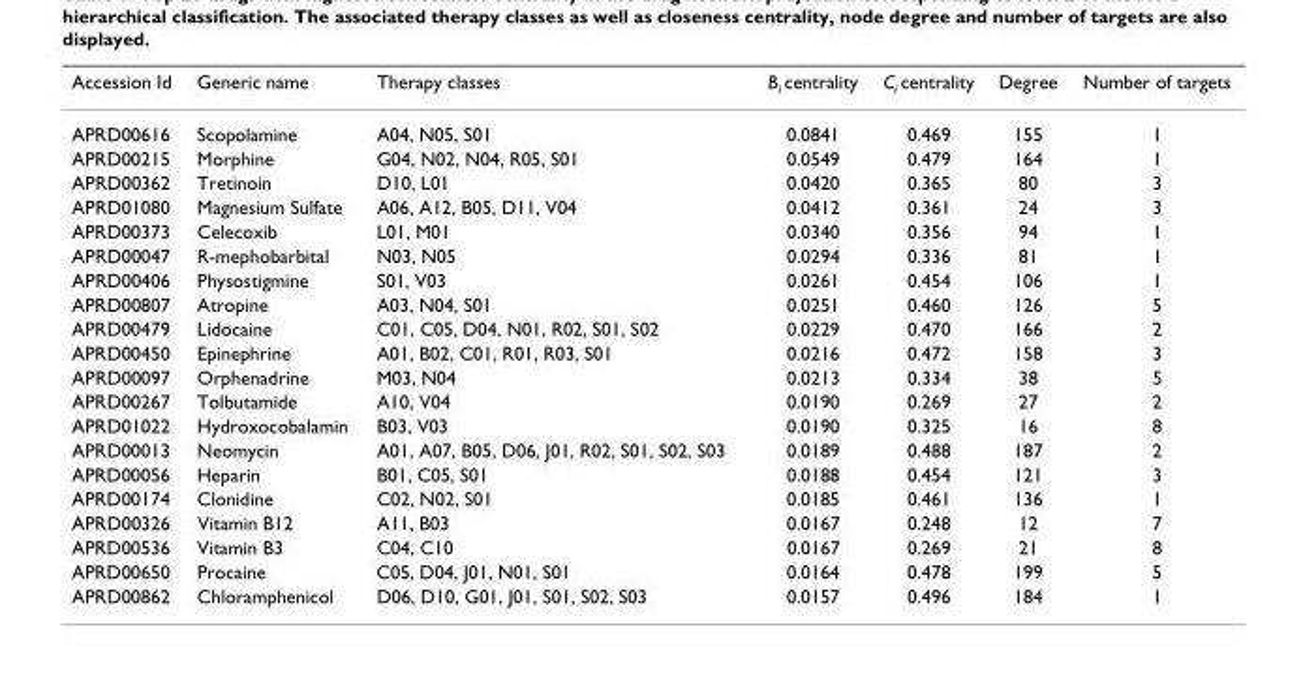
<table><thead><tr><td>Accession Id</td><td>Generic name</td><td>Therapy classes</td><td>B<sub>i</sub> centrality</td><td>C<sub>i</sub> centrality</td><td>Degree</td><td>Number of targets</td></tr></thead><tbody><tr><td>APRD00616</td><td>Scopolamine</td><td>A04, N05, S01</td><td>0.0841</td><td>0.469</td><td>155</td><td>1</td></tr><tr><td>APRD00215</td><td>Morphine</td><td>G04, N02, N04, R05, S01</td><td>0.0549</td><td>0.479</td><td>164</td><td>1</td></tr><tr><td>APRD00362</td><td>Tretinoin</td><td>D10, L01</td><td>0.0420</td><td>0.365</td><td>80</td><td>3</td></tr><tr><td>APRD01080</td><td>Magnesium Sulfate</td><td>A06, A12, B05, D11, V04</td><td>0.0412</td><td>0.361</td><td>24</td><td>3</td></tr><tr><td>APRD00373</td><td>Celecoxib</td><td>L01, M01</td><td>0.0340</td><td>0.356</td><td>94</td><td>1</td></tr><tr><td>APRD00047</td><td>R-mephobarbital</td><td>N03, N05</td><td>0.0294</td><td>0.336</td><td>81</td><td>1</td></tr><tr><td>APRD00406</td><td>Physostigmine</td><td>S01, V03</td><td>0.0261</td><td>0.454</td><td>106</td><td>1</td></tr><tr><td>APRD00807</td><td>Atropine</td><td>A03, N04, S01</td><td>0.0251</td><td>0.460</td><td>126</td><td>5</td></tr><tr><td>APRD00479</td><td>Lidocaine</td><td>C01, C05, D04, N01, R02, S01, S02</td><td>0.0229</td><td>0.470</td><td>166</td><td>2</td></tr><tr><td>APRD00450</td><td>Epinephrine</td><td>A01, B02, C01, R01, R03, S01</td><td>0.0216</td><td>0.472</td><td>158</td><td>3</td></tr><tr><td>APRD00097</td><td>Orphenadrine</td><td>M03, N04</td><td>0.0213</td><td>0.334</td><td>38</td><td>5</td></tr><tr><td>APRD00267</td><td>Tolbutamide</td><td>A10, V04</td><td>0.0190</td><td>0.269</td><td>27</td><td>2</td></tr><tr><td>APRD01022</td><td>Hydroxocobalamin</td><td>B03, V03</td><td>0.0190</td><td>0.325</td><td>16</td><td>8</td></tr><tr><td>APRD00013</td><td>Neomycin</td><td>A01, A07, B05, D06, J01, R02, S01, S02, S03</td><td>0.0189</td><td>0.488</td><td>187</td><td>2</td></tr><tr><td>APRD00056</td><td>Heparin</td><td>B01, C05, S01</td><td>0.0188</td><td>0.454</td><td>121</td><td>3</td></tr><tr><td>APRD00174</td><td>Clonidine</td><td>C02, N02, S01</td><td>0.0185</td><td>0.461</td><td>136</td><td>1</td></tr><tr><td>APRD00326</td><td>Vitamin B12</td><td>A11, B03</td><td>0.0167</td><td>0.248</td><td>12</td><td>7</td></tr><tr><td>APRD00536</td><td>Vitamin B3</td><td>C04, C10</td><td>0.0167</td><td>0.269</td><td>21</td><td>8</td></tr><tr><td>APRD00650</td><td>Procaine</td><td>C05, D04, J01, N01, S01</td><td>0.0164</td><td>0.478</td><td>199</td><td>5</td></tr><tr><td>APRD00862</td><td>Chloramphenicol</td><td>D06, D10, G01, J01, S01, S02, S03</td><td>0.0157</td><td>0.496</td><td>184</td><td>1</td></tr></tbody></table>